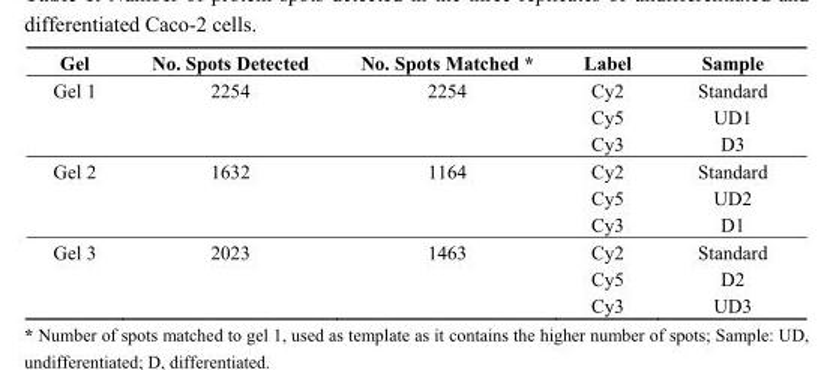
<table><thead><tr><td>Gel</td><td>No. Spots Detected</td><td>No. Spots Matched</td><td>* Label</td><td>Sample</td></tr></thead><tbody><tr><td rowspan="3">Gel 1</td><td>2254</td><td>2254</td><td>Cy2</td><td>Standard</td></tr><tr><td></td><td></td><td>Cy5</td><td>UD1</td></tr><tr><td></td><td></td><td>Cy3</td><td>D3</td></tr><tr><td rowspan="3">Gel 2</td><td>1632</td><td>1164</td><td>Cy2</td><td>Standard</td></tr><tr><td></td><td></td><td>Cy5</td><td>UD2</td></tr><tr><td></td><td></td><td>Cy3</td><td>D1</td></tr><tr><td rowspan="3">Gel 3</td><td>2023</td><td>1463</td><td>Cy2</td><td>Standard</td></tr><tr><td></td><td></td><td>Cy5</td><td>D2</td></tr><tr><td></td><td></td><td>Cy3</td><td>UD3</td></tr></tbody></table>